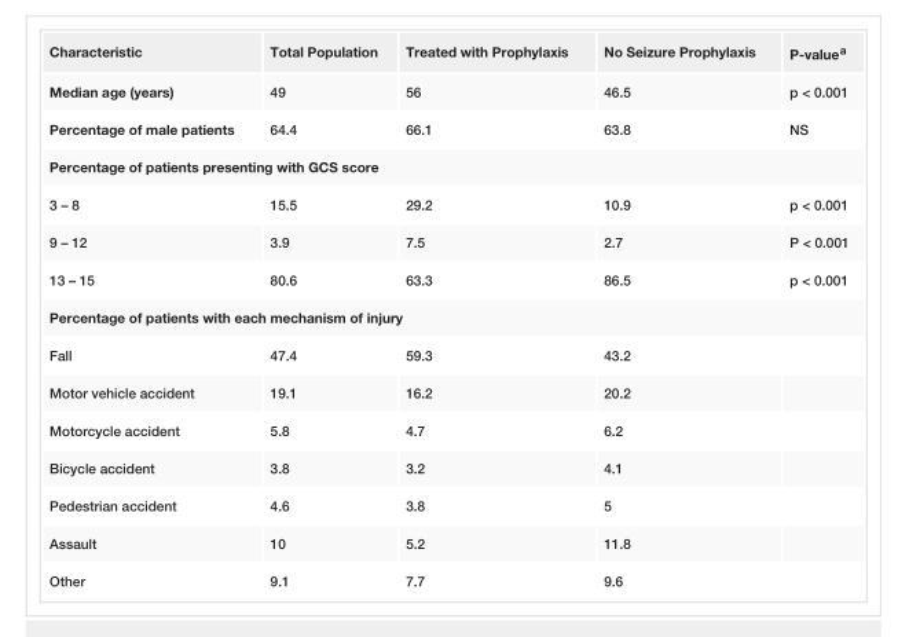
<table><tbody><tr><td>Characteristic</td><td>Total Population</td><td>Treated with Prophylaxis</td><td>No Seizure Prophylaxis</td><td>P-value<sup>a</sup></td></tr><tr><td>Median age (years)</td><td>49</td><td>56</td><td>46.5</td><td>p &lt; 0.001</td></tr><tr><td>Percentage of male patients</td><td>64.4</td><td>66.1</td><td>63.8</td><td>NS</td></tr><tr><td colspan="5">Percentage of patients presenting with GCS score</td></tr><tr><td>3 – 8</td><td>15.5</td><td>29.2</td><td>10.9</td><td>p &lt; 0.001</td></tr><tr><td>9 – 12</td><td>3.9</td><td>7.5</td><td>2.7</td><td>P &lt; 0.001</td></tr><tr><td>13 – 15</td><td>80.6</td><td>63.3</td><td>86.5</td><td>p &lt; 0.001</td></tr><tr><td colspan="5">Percentage of patients with each mechanism of injury</td></tr><tr><td>Fall</td><td>47.4</td><td>59.3</td><td>43.2</td><td></td></tr><tr><td>Motor vehicle accident</td><td>19.1</td><td>16.2</td><td>20.2</td><td></td></tr><tr><td>Motorcycle accident</td><td>5.8</td><td>4.7</td><td>6.2</td><td></td></tr><tr><td>Bicycle accident</td><td>3.8</td><td>3.2</td><td>4.1</td><td></td></tr><tr><td>Pedestrian accident</td><td>4.6</td><td>3.8</td><td>5</td><td></td></tr><tr><td>Assault</td><td>10</td><td>5.2</td><td>11.8</td><td></td></tr><tr><td>Other</td><td>9.1</td><td>7.7</td><td>9.6</td><td></td></tr></tbody></table>